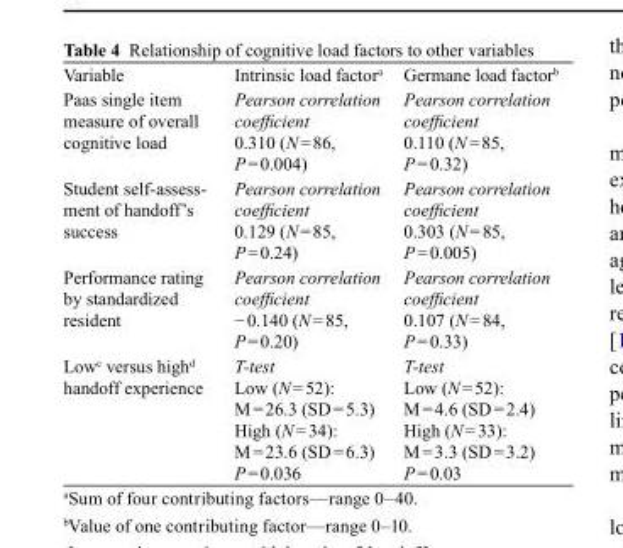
<table><tbody><tr><td>Variable</td><td>Intrinsic load factor<sup>a</sup></td><td>Germane load factor<sup>b</sup></td></tr><tr><td>Paas single item measure of overall cognitive load</td><td>Pearson correlation coefficient 0.310 (N = 86, P = 0.004)</td><td>Pearson correlation coefficient 0.110 (N = 85, P = 0.32)</td></tr><tr><td>Student self-assess- ment of handoff’s success</td><td>Pearson correlation coefficient 0.129 (N = 85, P = 0.24)</td><td>Pearson correlation coefficient 0.303 (N = 85, P = 0.005)</td></tr><tr><td>Performance rating by standardized resident</td><td>Pearson correlation coefficient − 0.140 (N = 85, P = 0.20)</td><td>Pearson correlation coefficient 0.107 (N = 84, P = 0.33)</td></tr><tr><td>Low<sup>c</sup> versus high<sup>d</sup> handoff experience</td><td>T-test Low (N = 52): M = 26.3 (SD = 5.3) High (N = 34): M = 23.6 (SD = 6.3) P = 0.036</td><td>T-test Low (N = 52): M = 4.6 (SD = 2.4) High (N = 33): M = 3.3 (SD = 3.2) P = 0.03</td></tr></tbody></table>